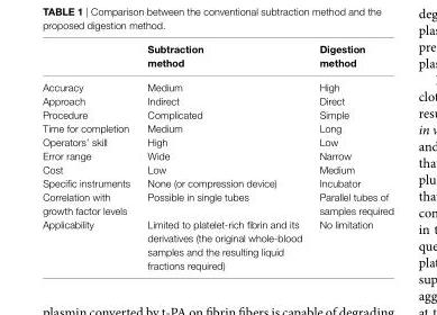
<table><thead><tr><td></td><td>subtraction method</td><td>digestion method</td></tr></thead><tbody><tr><td>Accuracy</td><td>Medium</td><td>High</td></tr><tr><td>Approach</td><td>Indirect</td><td>Direct</td></tr><tr><td>Procedure</td><td>Complicated</td><td>Simple</td></tr><tr><td>Time for completion</td><td>Medium</td><td>Long</td></tr><tr><td>Operators’ skill</td><td>High</td><td>Low</td></tr><tr><td>Error range</td><td>Wide</td><td>Narrow</td></tr><tr><td>Cost</td><td>Low</td><td>Medium</td></tr><tr><td>Specific instruments</td><td>None (or compression device)</td><td>Incubator</td></tr><tr><td>Correlation with growth factor levels</td><td>Possible in single tubes</td><td>Parallel tubes of samples required</td></tr><tr><td>Applicability</td><td>Limited to platelet-rich fibrin and its derivatives (the original whole-blood samples and the resulting liquid fractions required)</td><td>No limitation</td></tr></tbody></table>